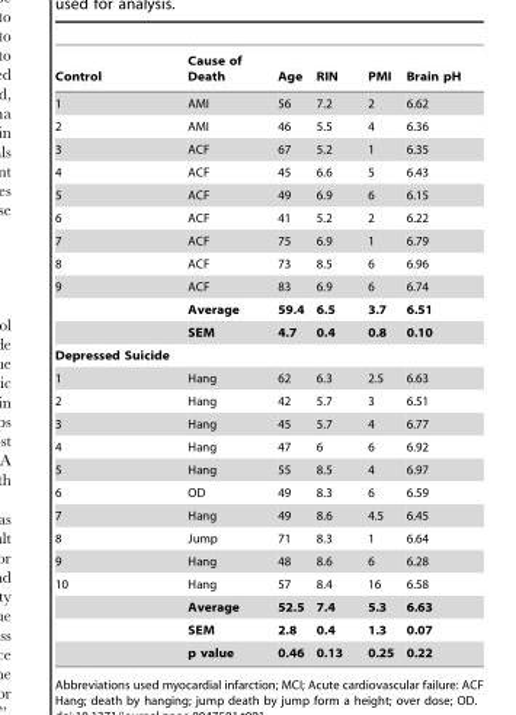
<table><thead><tr><td>Control</td><td>Cause of Death</td><td>Age</td><td>RIN</td><td>PMI</td><td>Brain pH</td></tr></thead><tbody><tr><td>1</td><td>AMI</td><td>56</td><td>7.2</td><td>2</td><td>6.62</td></tr><tr><td>2</td><td>AMI</td><td>46</td><td>5.5</td><td>4</td><td>6.36</td></tr><tr><td>3</td><td>ACF</td><td>67</td><td>5.2</td><td>1</td><td>6.35</td></tr><tr><td>4</td><td>ACF</td><td>45</td><td>6.6</td><td>5</td><td>6.43</td></tr><tr><td>5</td><td>ACF</td><td>49</td><td>6.9</td><td>6</td><td>6.15</td></tr><tr><td>6</td><td>ACF</td><td>41</td><td>5.2</td><td>2</td><td>6.22</td></tr><tr><td>7</td><td>ACF</td><td>75</td><td>6.9</td><td>1</td><td>6.79</td></tr><tr><td>8</td><td>ACF</td><td>73</td><td>8.5</td><td>6</td><td>6.96</td></tr><tr><td rowspan="3">9</td><td>ACF</td><td>83</td><td>6.9</td><td>6</td><td>6.74</td></tr><tr><td>Average</td><td>59.4</td><td>6.5</td><td>3.7</td><td>6.51</td></tr><tr><td>SEM</td><td>4.7</td><td>0.4</td><td>0.8</td><td>0.10</td></tr><tr><td colspan="6">Depressed Suicide</td></tr><tr><td>1</td><td>Hang</td><td>62</td><td>6.3</td><td>2.5</td><td>6.63</td></tr><tr><td>2</td><td>Hang</td><td>42</td><td>5.7</td><td>3</td><td>6.51</td></tr><tr><td>3</td><td>Hang</td><td>45</td><td>5.7</td><td>4</td><td>6.77</td></tr><tr><td>4</td><td>Hang</td><td>47</td><td>6</td><td>6</td><td>6.92</td></tr><tr><td>5</td><td>Hang</td><td>55</td><td>8.5</td><td>4</td><td>6.97</td></tr><tr><td>6</td><td>OD</td><td>49</td><td>8.3</td><td>6</td><td>6.59</td></tr><tr><td>7</td><td>Hang</td><td>49</td><td>8.6</td><td>4.5</td><td>6.45</td></tr><tr><td>8</td><td>Jump</td><td>71</td><td>8.3</td><td>1</td><td>6.64</td></tr><tr><td>9</td><td>Hang</td><td>48</td><td>8.6</td><td>6</td><td>6.28</td></tr><tr><td rowspan="4">10</td><td>Hang</td><td>57</td><td>8.4</td><td>16</td><td>6.58</td></tr><tr><td>Average</td><td>52.5</td><td>7.4</td><td>5.3</td><td>6.63</td></tr><tr><td>SEM</td><td>2.8</td><td>0.4</td><td>1.3</td><td>0.07</td></tr><tr><td>p value</td><td>0.46</td><td>0.13</td><td>0.25</td><td>0.22</td></tr></tbody></table>